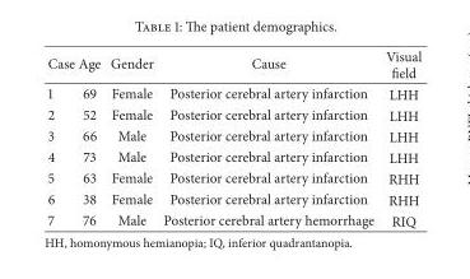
<table><thead><tr><td>Case</td><td>Age</td><td>Gender</td><td>Cause</td><td>Visual field</td></tr></thead><tbody><tr><td>1</td><td>69</td><td>Female</td><td>Posterior cerebral artery infarction</td><td>LHH</td></tr><tr><td>2</td><td>52</td><td>Female</td><td>Posterior cerebral artery infarction</td><td>LHH</td></tr><tr><td>3</td><td>66</td><td>Male</td><td>Posterior cerebral artery infarction</td><td>LHH</td></tr><tr><td>4</td><td>73</td><td>Male</td><td>Posterior cerebral artery infarction</td><td>LHH</td></tr><tr><td>5</td><td>63</td><td>Female</td><td>Posterior cerebral artery infarction</td><td>RHH</td></tr><tr><td>6</td><td>38</td><td>Female</td><td>Posterior cerebral artery infarction</td><td>RHH</td></tr><tr><td>7</td><td>76</td><td>Male</td><td>Posterior cerebral artery hemorrhage</td><td>RIQ</td></tr></tbody></table>